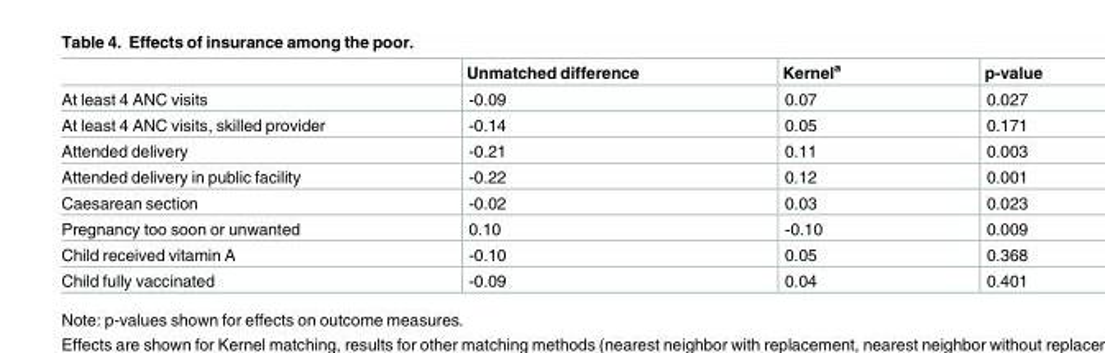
<table><thead><tr><td></td><td>Unmatched difference</td><td>Kernel<sup>a</sup></td><td>p-value</td></tr></thead><tbody><tr><td>At least 4 ANC visits</td><td>-0.09</td><td>0.07</td><td>0.027</td></tr><tr><td>At least 4 ANC visits, skilled provider</td><td>-0.14</td><td>0.05</td><td>0.171</td></tr><tr><td>Attended delivery</td><td>-0.21</td><td>0.11</td><td>0.003</td></tr><tr><td>Attended delivery in public facility</td><td>-0.22</td><td>0.12</td><td>0.001</td></tr><tr><td>Caesarean section</td><td>-0.02</td><td>0.03</td><td>0.023</td></tr><tr><td>Pregnancy too soon or unwanted</td><td>0.10</td><td>-0.10</td><td>0.009</td></tr><tr><td>Child received vitamin A</td><td>-0.10</td><td>0.05</td><td>0.368</td></tr><tr><td>Child fully vaccinated</td><td>-0.09</td><td>0.04</td><td>0.401</td></tr></tbody></table>